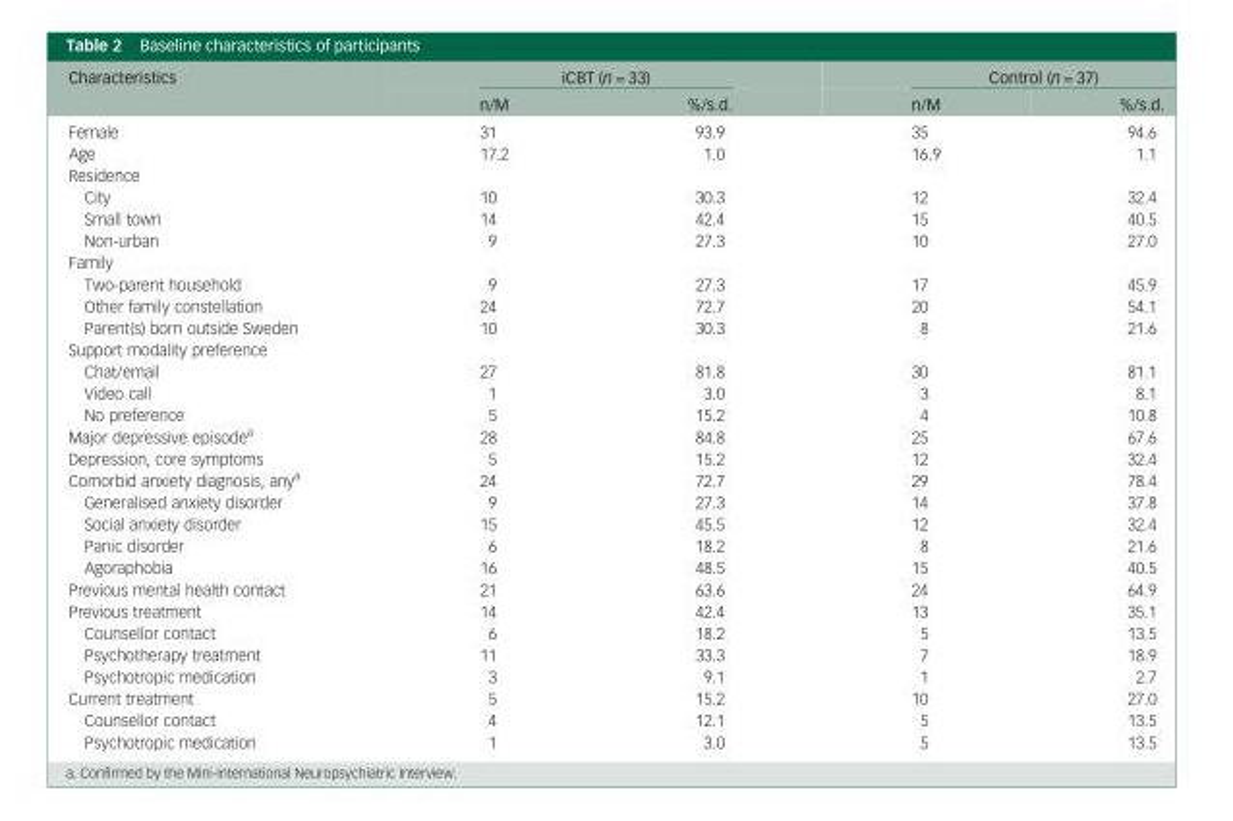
<table><thead><tr><td rowspan="2">Characteristics</td><td colspan="2">iCBT (n = 33)</td><td colspan="2">Control (n = 37)</td></tr><tr><td>n/M</td><td>%/s.d.</td><td>n/M</td><td>%/s.d.</td></tr></thead><tbody><tr><td>Female</td><td>31</td><td>93.9</td><td>35</td><td>94.6</td></tr><tr><td>Age</td><td>17.2</td><td>1.0</td><td>16.9</td><td>1.1</td></tr><tr><td colspan="5">Residence</td></tr><tr><td>City</td><td>10</td><td>30.3</td><td>12</td><td>32.4</td></tr><tr><td>Small town</td><td>14</td><td>42.4</td><td>15</td><td>40.5</td></tr><tr><td>Non-urban</td><td>9</td><td>27.3</td><td>10</td><td>27.0</td></tr><tr><td colspan="5">Family</td></tr><tr><td>Two-parent household</td><td>9</td><td>27.3</td><td>17</td><td>45.9</td></tr><tr><td>Other family constellation</td><td>24</td><td>72.7</td><td>20</td><td>54.1</td></tr><tr><td>Parent(s) born outside Sweden</td><td>10</td><td>30.3</td><td>8</td><td>21.6</td></tr><tr><td colspan="5">Support modality preference</td></tr><tr><td>Chat/email</td><td>27</td><td>81.8</td><td>30</td><td>81.1</td></tr><tr><td>Video call</td><td>1</td><td>3.0</td><td>3</td><td>8.1</td></tr><tr><td>No preference</td><td>5</td><td>15.2</td><td>4</td><td>10.8</td></tr><tr><td>Major depressive episode<sup>a</sup></td><td>28</td><td>84.8</td><td>25</td><td>67.6</td></tr><tr><td>Depression, core symptoms</td><td>5</td><td>15.2</td><td>12</td><td>32.4</td></tr><tr><td>Comorbid anxiety diagnosis, any<sup>a</sup></td><td>24</td><td>72.7</td><td>29</td><td>78.4</td></tr><tr><td>Generalised anxiety disorder</td><td>9</td><td>27.3</td><td>14</td><td>37.8</td></tr><tr><td>Social anxiety disorder</td><td>15</td><td>45.5</td><td>12</td><td>32.4</td></tr><tr><td>Panic disorder</td><td>6</td><td>18.2</td><td>8</td><td>21.6</td></tr><tr><td>Agoraphobia</td><td>16</td><td>48.5</td><td>15</td><td>40.5</td></tr><tr><td>Previous mental health contact</td><td>21</td><td>63.6</td><td>24</td><td>64.9</td></tr><tr><td>Previous treatment</td><td>14</td><td>42.4</td><td>13</td><td>35.1</td></tr><tr><td>Counsellor contact</td><td>6</td><td>18.2</td><td>5</td><td>13.5</td></tr><tr><td>Psychotherapy treatment</td><td>11</td><td>33.3</td><td>7</td><td>18.9</td></tr><tr><td>Psychotropic medication</td><td>3</td><td>9.1</td><td>1</td><td>2.7</td></tr><tr><td>Current treatment</td><td>5</td><td>15.2</td><td>10</td><td>27.0</td></tr><tr><td>Counsellor contact</td><td>4</td><td>12.1</td><td>5</td><td>13.5</td></tr><tr><td>Psychotropic medication</td><td>1</td><td>3.0</td><td>5</td><td>13.5</td></tr></tbody></table>